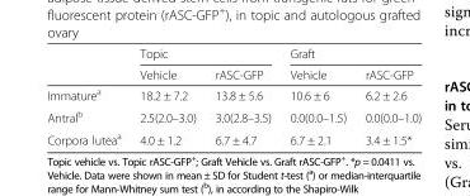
<table><thead><tr><td rowspan="2"></td><td colspan="2">Topic</td><td colspan="2">Graft</td></tr><tr><td>Vehicle</td><td>rASC-GFP</td><td>Vehicle</td><td>rASC-GFP</td></tr></thead><tbody><tr><td>Immature<sup>a</sup></td><td>18.2 ± 7.2</td><td>13.8 ± 5.6</td><td>10.6 ± 6</td><td>6.2 ± 2.6</td></tr><tr><td>Antral<sup>b</sup></td><td>2.5(2.0–3.0)</td><td>3.0(2.8–3.5)</td><td>0.0(0.0–1.5)</td><td>0.0(0.0–1.0)</td></tr><tr><td>Corpora lutea<sup>a</sup></td><td>4.0 ± 1.2</td><td>6.7 ± 4.7</td><td>6.7 ± 2.1</td><td>3.4 ± 1.5*</td></tr></tbody></table>